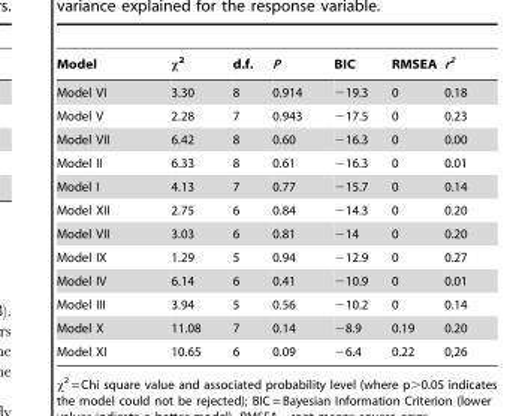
<table><thead><tr><td>Model</td><td>χ<sup>2</sup></td><td>d.f.</td><td>P</td><td>BIC</td><td>RMSEA</td><td>r<sup>2</sup></td></tr></thead><tbody><tr><td>Model VI</td><td>3.30</td><td>8</td><td>0.914</td><td>−19.3</td><td>0</td><td>0.18</td></tr><tr><td>Model V</td><td>2.28</td><td>7</td><td>0.943</td><td>−17.5</td><td>0</td><td>0.23</td></tr><tr><td>Model VII</td><td>6.42</td><td>8</td><td>0.60</td><td>−16.3</td><td>0</td><td>0.00</td></tr><tr><td>Model II</td><td>6.33</td><td>8</td><td>0.61</td><td>−16.3</td><td>0</td><td>0.01</td></tr><tr><td>Model I</td><td>4.13</td><td>7</td><td>0.77</td><td>−15.7</td><td>0</td><td>0.14</td></tr><tr><td>Model XII</td><td>2.75</td><td>6</td><td>0.84</td><td>−14.3</td><td>0</td><td>0.20</td></tr><tr><td>Model VII</td><td>3.03</td><td>6</td><td>0.81</td><td>−14</td><td>0</td><td>0.20</td></tr><tr><td>Model IX</td><td>1.29</td><td>5</td><td>0.94</td><td>−12.9</td><td>0</td><td>0.27</td></tr><tr><td>Model IV</td><td>6.14</td><td>6</td><td>0.41</td><td>−10.9</td><td>0</td><td>0.01</td></tr><tr><td>Model III</td><td>3.94</td><td>5</td><td>0.56</td><td>−10.2</td><td>0</td><td>0.14</td></tr><tr><td>Model X</td><td>11.08</td><td>7</td><td>0.14</td><td>−8.9</td><td>0.19</td><td>0.20</td></tr><tr><td>Model XI</td><td>10.65</td><td>6</td><td>0.09</td><td>−6.4</td><td>0.22</td><td>0,26</td></tr></tbody></table>